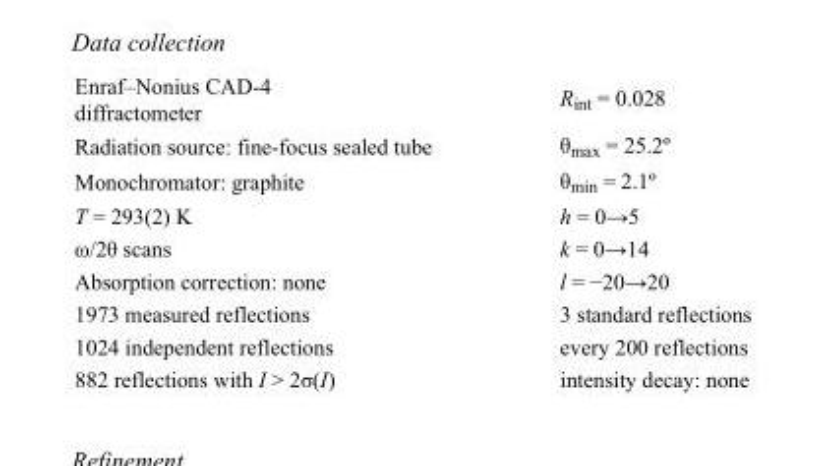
<table><tbody><tr><td>Enraf–Nonius CAD-4 diffractometer</td><td>R<sub>int</sub> = 0.028</td></tr><tr><td>Radiation source: fine-focus sealed tube</td><td>θ<sub>max</sub> = 25.2º</td></tr><tr><td>Monochromator: graphite</td><td>θ<sub>min</sub> = 2.1º</td></tr><tr><td>T = 293(2) K</td><td>h = 0→5</td></tr><tr><td>ω/2θ scans</td><td>k = 0→14</td></tr><tr><td>Absorption correction: none</td><td>l = −20→20</td></tr><tr><td>1973 measured reflections</td><td>3 standard reflections</td></tr><tr><td>1024 independent reflections</td><td>every 200 reflections</td></tr><tr><td>882 reflections with I &gt; 2σ(I)</td><td>intensity decay: none</td></tr></tbody></table>